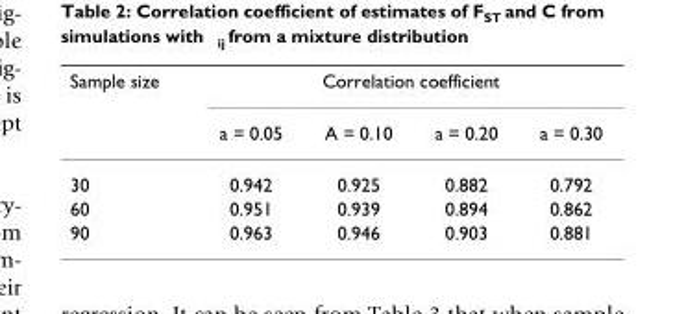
<table><thead><tr><td rowspan="2">Sample size</td><td colspan="4">Correlation coefficient</td></tr><tr><td>a = 0.05</td><td>A = 0.10</td><td>a = 0.20</td><td>a = 0.30</td></tr></thead><tbody><tr><td>30</td><td>0.942</td><td>0.925</td><td>0.882</td><td>0.792</td></tr><tr><td>60</td><td>0.951</td><td>0.939</td><td>0.894</td><td>0.862</td></tr><tr><td>90</td><td>0.963</td><td>0.946</td><td>0.903</td><td>0.881</td></tr></tbody></table>